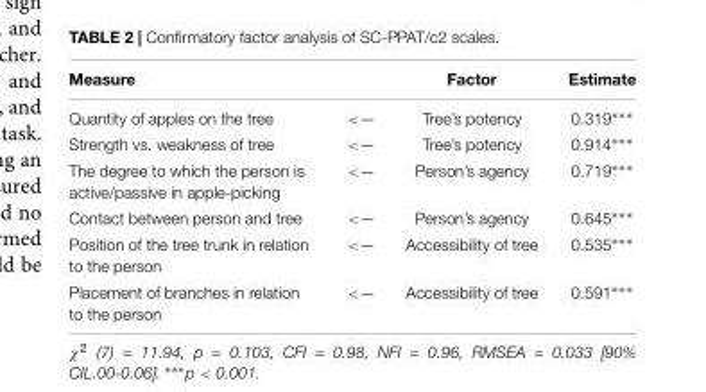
<table><thead><tr><td>Measure</td><td></td><td>Factor</td><td>Estimate</td></tr></thead><tbody><tr><td>Quantity of apples on the tree</td><td>&lt;—</td><td>Tree’s potency</td><td>0.319∗∗∗</td></tr><tr><td>Strength vs. weakness of tree</td><td>&lt;—</td><td>Tree’s potency</td><td>0.914∗∗∗</td></tr><tr><td>The degree to which the person is active/passive in apple-picking</td><td>&lt;—</td><td>Person’s agency</td><td>0.719∗∗∗</td></tr><tr><td>Contact between person and tree</td><td>&lt;—</td><td>Person’s agency</td><td>0.645∗∗∗</td></tr><tr><td>Position of the tree trunk in relation to the person</td><td>&lt;—</td><td>Accessibility of tree</td><td>0.535∗∗∗</td></tr><tr><td>Placement of branches in relation to the person</td><td>&lt;—</td><td>Accessibility of tree</td><td>0.591∗∗∗</td></tr></tbody></table>